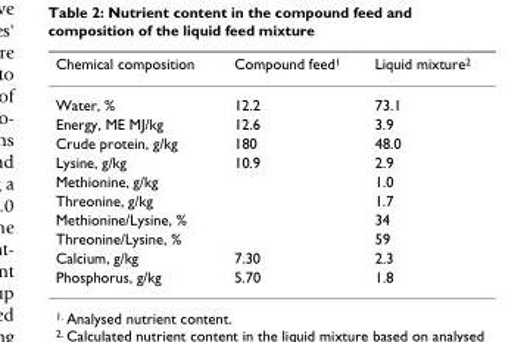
<table><thead><tr><td>Chemical composition</td><td>Compound feed<sup>1</sup></td><td>Liquid mixture<sup>2</sup></td></tr></thead><tbody><tr><td>Water, %</td><td>12.2</td><td>73.1</td></tr><tr><td>Energy, ME MJ/kg</td><td>12.6</td><td>3.9</td></tr><tr><td>Crude protein, g/kg</td><td>180</td><td>48.0</td></tr><tr><td>Lysine, g/kg</td><td>10.9</td><td>2.9</td></tr><tr><td>Methionine, g/kg</td><td></td><td>1.0</td></tr><tr><td>Threonine, g/kg</td><td></td><td>1.7</td></tr><tr><td>Methionine/Lysine, %</td><td></td><td>34</td></tr><tr><td>Threonine/Lysine, %</td><td></td><td>59</td></tr><tr><td>Calcium, g/kg</td><td>7.30</td><td>2.3</td></tr><tr><td>Phosphorus, g/kg</td><td>5.70</td><td>1.8</td></tr></tbody></table>